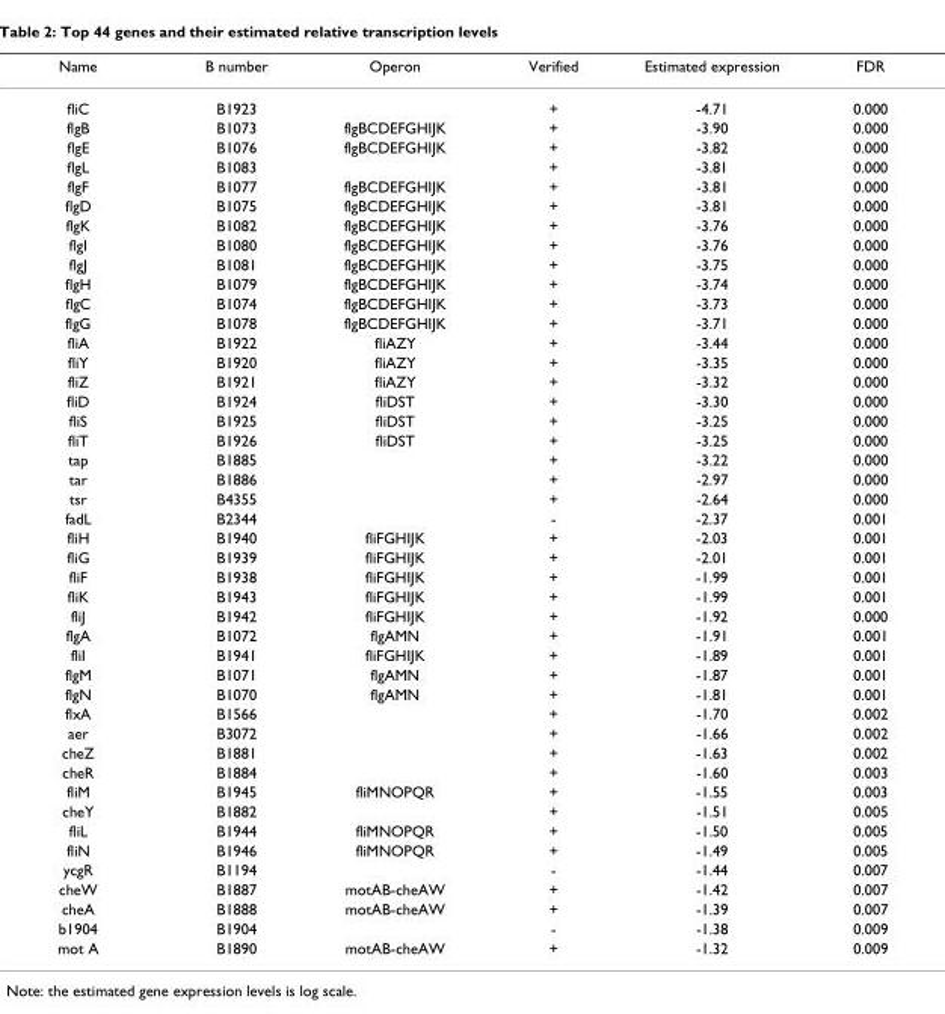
<table><thead><tr><td>Name</td><td>B number</td><td>Operon</td><td>Verified</td><td>Estimated expression</td><td>FDR</td></tr></thead><tbody><tr><td>fliC</td><td>B1923</td><td></td><td>+</td><td>-4.71</td><td>0.000</td></tr><tr><td>flgB</td><td>B1073</td><td>flgBCDEFGHIJK</td><td>+</td><td>-3.90</td><td>0.000</td></tr><tr><td>flgE</td><td>B1076</td><td>flgBCDEFGHIJK</td><td>+</td><td>-3.82</td><td>0.000</td></tr><tr><td>flgL</td><td>B1083</td><td></td><td>+</td><td>-3.81</td><td>0.000</td></tr><tr><td>flgF</td><td>B1077</td><td>flgBCDEFGHIJK</td><td>+</td><td>-3.81</td><td>0.000</td></tr><tr><td>flgD</td><td>B1075</td><td>flgBCDEFGHIJK</td><td>+</td><td>-3.81</td><td>0.000</td></tr><tr><td>flgK</td><td>B1082</td><td>flgBCDEFGHIJK</td><td>+</td><td>-3.76</td><td>0.000</td></tr><tr><td>flgI</td><td>B1080</td><td>flgBCDEFGHIJK</td><td>+</td><td>-3.76</td><td>0.000</td></tr><tr><td>flgJ</td><td>B1081</td><td>flgBCDEFGHIJK</td><td>+</td><td>-3.75</td><td>0.000</td></tr><tr><td>flgH</td><td>B1079</td><td>flgBCDEFGHIJK</td><td>+</td><td>-3.74</td><td>0.000</td></tr><tr><td>flgC</td><td>B1074</td><td>flgBCDEFGHIJK</td><td>+</td><td>-3.73</td><td>0.000</td></tr><tr><td>flgG</td><td>B1078</td><td>flgBCDEFGHIJK</td><td>+</td><td>-3.71</td><td>0.000</td></tr><tr><td>fliA</td><td>B1922</td><td>fliAZY</td><td>+</td><td>-3.44</td><td>0.000</td></tr><tr><td>fliY</td><td>B1920</td><td>fliAZY</td><td>+</td><td>-3.35</td><td>0.000</td></tr><tr><td>fliZ</td><td>B1921</td><td>fliAZY</td><td>+</td><td>-3.32</td><td>0.000</td></tr><tr><td>fliD</td><td>B1924</td><td>fliDST</td><td>+</td><td>-3.30</td><td>0.000</td></tr><tr><td>fliS</td><td>B1925</td><td>fliDST</td><td>+</td><td>-3.25</td><td>0.000</td></tr><tr><td>fliT</td><td>B1926</td><td>fliDST</td><td>+</td><td>-3.25</td><td>0.000</td></tr><tr><td>tap</td><td>B1885</td><td></td><td>+</td><td>-3.22</td><td>0.000</td></tr><tr><td>tar</td><td>B1886</td><td></td><td>+</td><td>-2.97</td><td>0.000</td></tr><tr><td>tsr</td><td>B4355</td><td></td><td>+</td><td>-2.64</td><td>0.000</td></tr><tr><td>fadL</td><td>B2344</td><td></td><td>-</td><td>-2.37</td><td>0.001</td></tr><tr><td>fliH</td><td>B1940</td><td>fliFGHIJK</td><td>+</td><td>-2.03</td><td>0.001</td></tr><tr><td>fliG</td><td>B1939</td><td>fliFGHIJK</td><td>+</td><td>-2.01</td><td>0.001</td></tr><tr><td>fliF</td><td>B1938</td><td>fliFGHIJK</td><td>+</td><td>-1.99</td><td>0.001</td></tr><tr><td>fliK</td><td>B1943</td><td>fliFGHIJK</td><td>+</td><td>-1.99</td><td>0.001</td></tr><tr><td>fliJ</td><td>B1942</td><td>fliFGHIJK</td><td>+</td><td>-1.92</td><td>0.000</td></tr><tr><td>flgA</td><td>B1072</td><td>flgAMN</td><td>+</td><td>-1.91</td><td>0.001</td></tr><tr><td>fliI</td><td>B1941</td><td>fliFGHIJK</td><td>+</td><td>-1.89</td><td>0.001</td></tr><tr><td>flgM</td><td>B1071</td><td>flgAMN</td><td>+</td><td>-1.87</td><td>0.001</td></tr><tr><td>flgN</td><td>B1070</td><td>flgAMN</td><td>+</td><td>-1.81</td><td>0.001</td></tr><tr><td>flxA</td><td>B1566</td><td></td><td>+</td><td>-1.70</td><td>0.002</td></tr><tr><td>aer</td><td>B3072</td><td></td><td>+</td><td>-1.66</td><td>0.002</td></tr><tr><td>cheZ</td><td>B1881</td><td></td><td>+</td><td>-1.63</td><td>0.002</td></tr><tr><td>cheR</td><td>B1884</td><td></td><td>+</td><td>-1.60</td><td>0.003</td></tr><tr><td>fliM</td><td>B1945</td><td>fliMNOPQR</td><td>+</td><td>-1.55</td><td>0.003</td></tr><tr><td>cheY</td><td>B1882</td><td></td><td>+</td><td>-1.51</td><td>0.005</td></tr><tr><td>fliL</td><td>B1944</td><td>fliMNOPQR</td><td>+</td><td>-1.50</td><td>0.005</td></tr><tr><td>fliN</td><td>B1946</td><td>fliMNOPQR</td><td>+</td><td>-1.49</td><td>0.005</td></tr><tr><td>ycgR</td><td>B1194</td><td></td><td>-</td><td>-1.44</td><td>0.007</td></tr><tr><td>cheW</td><td>B1887</td><td>motAB-cheAW</td><td>+</td><td>-1.42</td><td>0.007</td></tr><tr><td>cheA</td><td>B1888</td><td>motAB-cheAW</td><td>+</td><td>-1.39</td><td>0.007</td></tr><tr><td>b1904</td><td>B1904</td><td></td><td>-</td><td>-1.38</td><td>0.009</td></tr><tr><td>mot A</td><td>B1890</td><td>motAB-cheAW</td><td>+</td><td>-1.32</td><td>0.009</td></tr></tbody></table>